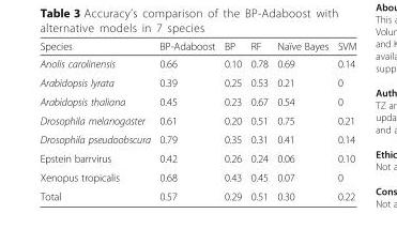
<table><thead><tr><td>Species</td><td>BP-Adaboost</td><td>BP</td><td>RF</td><td>Naïve Bayes</td><td>SVM</td></tr></thead><tbody><tr><td>Anolis carolinensis</td><td>0.66</td><td>0.10</td><td>0.78</td><td>0.69</td><td>0.14</td></tr><tr><td>Arabidopsis lyrata</td><td>0.39</td><td>0.25</td><td>0.53</td><td>0.21</td><td>0</td></tr><tr><td>Arabidopsis thaliana</td><td>0.45</td><td>0.23</td><td>0.67</td><td>0.54</td><td>0</td></tr><tr><td>Drosophila melanogaster</td><td>0.61</td><td>0.20</td><td>0.51</td><td>0.75</td><td>0.21</td></tr><tr><td>Drosophila pseudoobscura</td><td>0.79</td><td>0.35</td><td>0.31</td><td>0.41</td><td>0.14</td></tr><tr><td>Epstein barrvirus</td><td>0.42</td><td>0.26</td><td>0.24</td><td>0.06</td><td>0.10</td></tr><tr><td>Xenopus tropicalis</td><td>0.68</td><td>0.43</td><td>0.45</td><td>0.07</td><td>0</td></tr><tr><td>Total</td><td>0.57</td><td>0.29</td><td>0.51</td><td>0.30</td><td>0.22</td></tr></tbody></table>